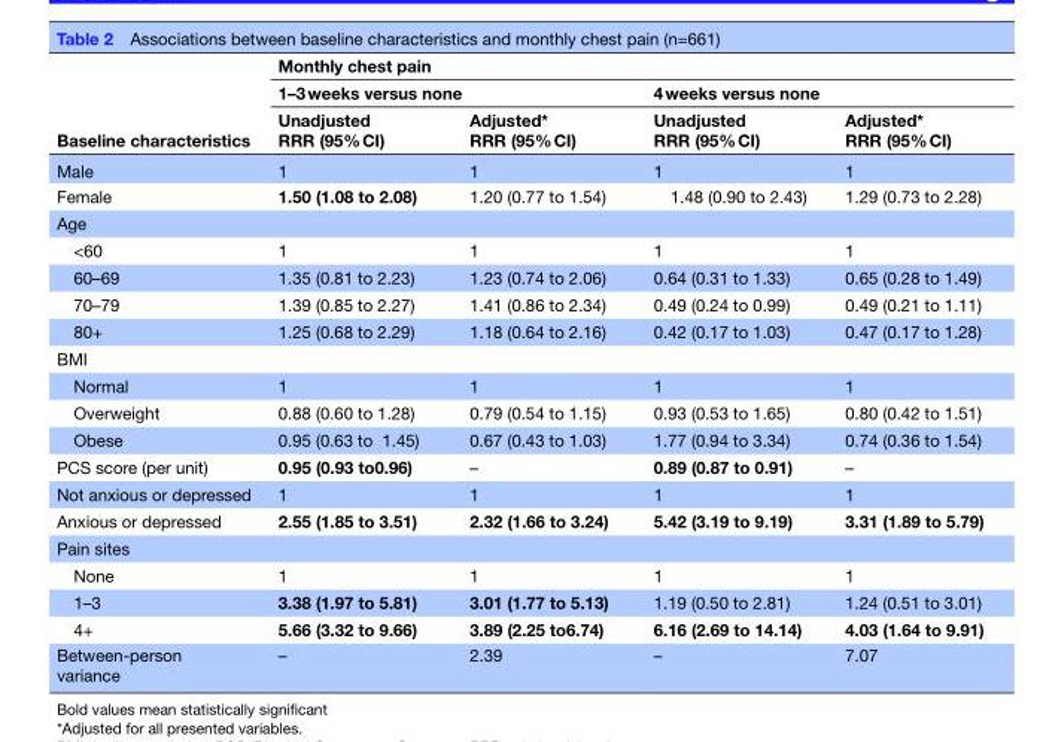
<table><thead><tr><td rowspan="3">Baseline characteristics</td><td colspan="4">Monthly chest pain</td></tr><tr><td colspan="2">1–3 weeks versus none</td><td colspan="2">4 weeks versus none</td></tr><tr><td>Unadjusted RRR (95% CI)</td><td>Adjusted* RRR (95% CI)</td><td>Unadjusted RRR (95% CI)</td><td>Adjusted* RRR (95% CI)</td></tr></thead><tbody><tr><td>Male</td><td>1</td><td>1</td><td>1</td><td>1</td></tr><tr><td>Female</td><td>1.50 (1.08 to 2.08)</td><td>1.20 (0.77 to 1.54)</td><td>1.48 (0.90 to 2.43)</td><td>1.29 (0.73 to 2.28)</td></tr><tr><td colspan="5">Age</td></tr><tr><td>&lt;60</td><td>1</td><td>1</td><td>1</td><td>1</td></tr><tr><td>60–69</td><td>1.35 (0.81 to 2.23)</td><td>1.23 (0.74 to 2.06)</td><td>0.64 (0.31 to 1.33)</td><td>0.65 (0.28 to 1.49)</td></tr><tr><td>70–79</td><td>1.39 (0.85 to 2.27)</td><td>1.41 (0.86 to 2.34)</td><td>0.49 (0.24 to 0.99)</td><td>0.49 (0.21 to 1.11)</td></tr><tr><td>80+</td><td>1.25 (0.68 to 2.29)</td><td>1.18 (0.64 to 2.16)</td><td>0.42 (0.17 to 1.03)</td><td>0.47 (0.17 to 1.28)</td></tr><tr><td colspan="5">BMI</td></tr><tr><td>Normal</td><td>1</td><td>1</td><td>1</td><td>1</td></tr><tr><td>Overweight</td><td>0.88 (0.60 to 1.28)</td><td>0.79 (0.54 to 1.15)</td><td>0.93 (0.53 to 1.65)</td><td>0.80 (0.42 to 1.51)</td></tr><tr><td>Obese</td><td>0.95 (0.63 to 1.45)</td><td>0.67 (0.43 to 1.03)</td><td>1.77 (0.94 to 3.34)</td><td>0.74 (0.36 to 1.54)</td></tr><tr><td>PCS score (per unit)</td><td>0.95 (0.93 to0.96)</td><td>–</td><td>0.89 (0.87 to 0.91)</td><td>–</td></tr><tr><td>Not anxious or depressed</td><td>1</td><td>1</td><td>1</td><td>1</td></tr><tr><td>Anxious or depressed</td><td>2.55 (1.85 to 3.51)</td><td>2.32 (1.66 to 3.24)</td><td>5.42 (3.19 to 9.19)</td><td>3.31 (1.89 to 5.79)</td></tr><tr><td colspan="5">Pain sites</td></tr><tr><td>None</td><td>1</td><td>1</td><td>1</td><td>1</td></tr><tr><td>1–3</td><td>3.38 (1.97 to 5.81)</td><td>3.01 (1.77 to 5.13)</td><td>1.19 (0.50 to 2.81)</td><td>1.24 (0.51 to 3.01)</td></tr><tr><td>4+</td><td>5.66 (3.32 to 9.66)</td><td>3.89 (2.25 to6.74)</td><td>6.16 (2.69 to 14.14)</td><td>4.03 (1.64 to 9.91)</td></tr><tr><td>Between-person variance</td><td>–</td><td>2.39</td><td>–</td><td>7.07</td></tr></tbody></table>